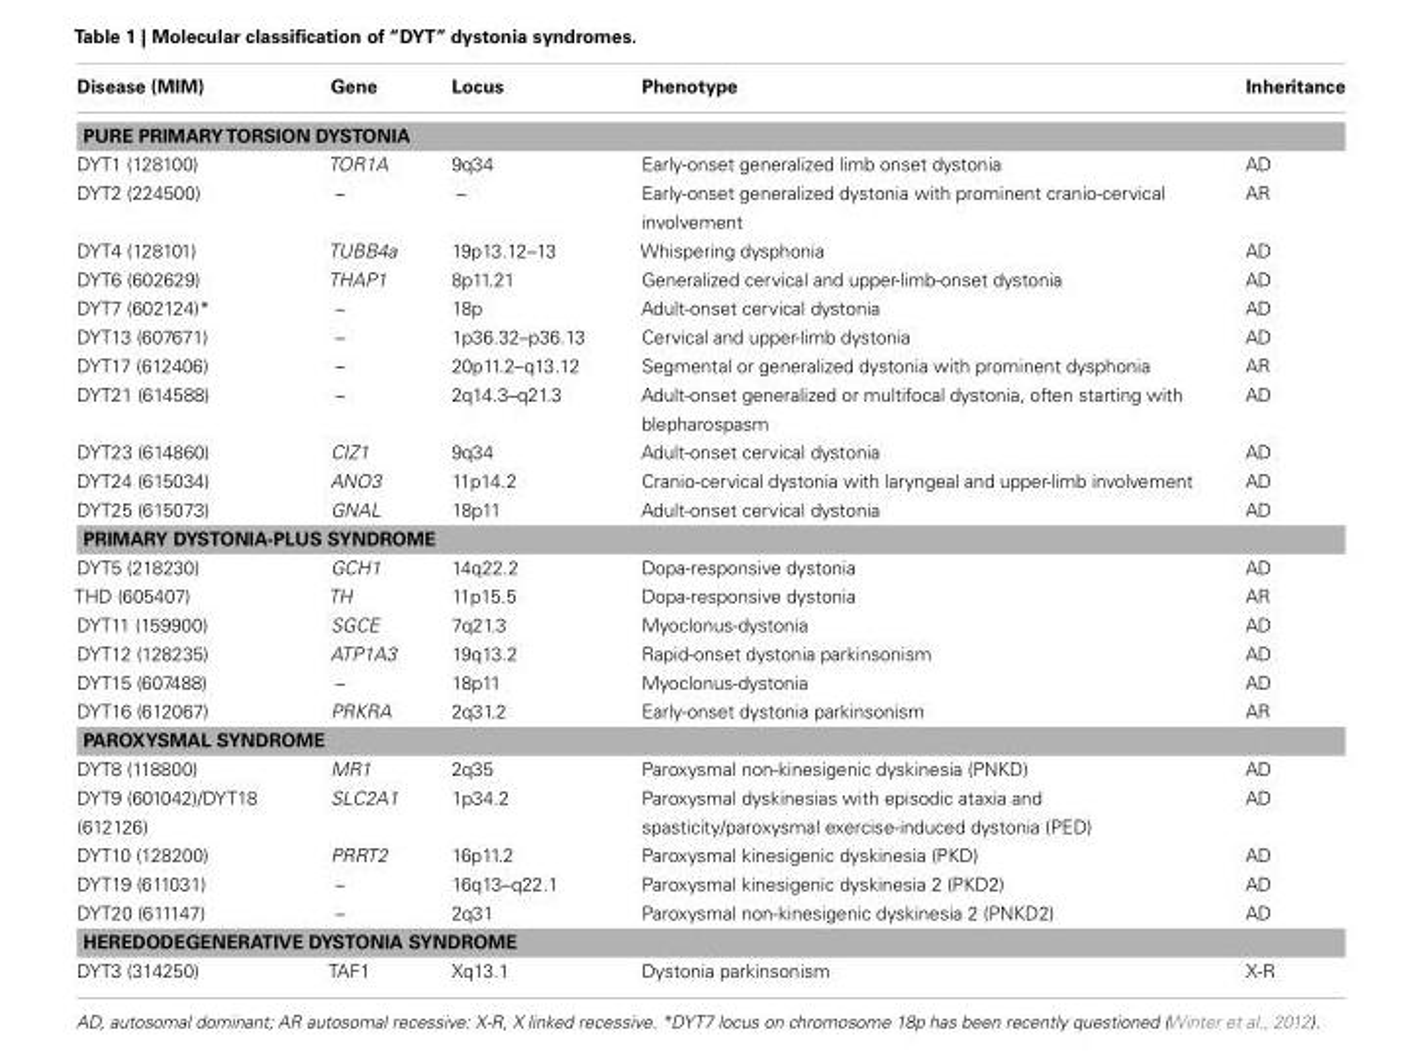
<table><thead><tr><td>Disease (MIM)</td><td>Gene</td><td>Locus</td><td>Phenotype</td><td>Inheritance</td></tr></thead><tbody><tr><td colspan="5">PURE PRIMARYTORSION DYSTONIA</td></tr><tr><td>DYT1 (128100)</td><td>TOR1A</td><td>9q34</td><td>Early-onset generalized limb onset dystonia</td><td>AD</td></tr><tr><td>DYT2 (224500)</td><td>–</td><td>–</td><td>Early-onset generalized dystonia with prominent cranio-cervical involvement</td><td>AR</td></tr><tr><td>DYT4 (128101)</td><td>TUBB4a</td><td>19p13.12–13</td><td>Whispering dysphonia</td><td>AD</td></tr><tr><td>DYT6 (602629)</td><td>THAP1</td><td>8p11.21</td><td>Generalized cervical and upper-limb-onset dystonia</td><td>AD</td></tr><tr><td>DYT7 (602124)*</td><td>–</td><td>18p</td><td>Adult-onset cervical dystonia</td><td>AD</td></tr><tr><td>DYT13 (607671)</td><td>–</td><td>1p36.32–p36.13</td><td>Cervical and upper-limb dystonia</td><td>AD</td></tr><tr><td>DYT17 (612406)</td><td>–</td><td>20p11.2–q13.12</td><td>Segmental or generalized dystonia with prominent dysphonia</td><td>AR</td></tr><tr><td>DYT21 (614588)</td><td>–</td><td>2q14.3–q21.3</td><td>Adult-onset generalized or multifocal dystonia, often starting with blepharospasm</td><td>AD</td></tr><tr><td>DYT23 (614860)</td><td>CIZ1</td><td>9q34</td><td>Adult-onset cervical dystonia</td><td>AD</td></tr><tr><td>DYT24 (615034)</td><td>ANO3</td><td>11p14.2</td><td>Cranio-cervical dystonia with laryngeal and upper-limb involvement</td><td>AD</td></tr><tr><td>DYT25 (615073)</td><td>GNAL</td><td>18p11</td><td>Adult-onset cervical dystonia</td><td>AD</td></tr><tr><td colspan="5">PRIMARY DYSTONIA-PLUS SYNDROME</td></tr><tr><td>DYT5 (218230)</td><td>GCH1</td><td>14q22.2</td><td>Dopa-responsive dystonia</td><td>AD</td></tr><tr><td>THD (605407)</td><td>TH</td><td>11p15.5</td><td>Dopa-responsive dystonia</td><td>AR</td></tr><tr><td>DYT11 (159900)</td><td>SGCE</td><td>7q21.3</td><td>Myoclonus-dystonia</td><td>AD</td></tr><tr><td>DYT12 (128235)</td><td>ATP1A3</td><td>19q13.2</td><td>Rapid-onset dystonia parkinsonism</td><td>AD</td></tr><tr><td>DYT15 (607488)</td><td>–</td><td>18p11</td><td>Myoclonus-dystonia</td><td>AD</td></tr><tr><td>DYT16 (612067)</td><td>PRKRA</td><td>2q31.2</td><td>Early-onset dystonia parkinsonism</td><td>AR</td></tr><tr><td colspan="5">PAROXYSMAL SYNDROME</td></tr><tr><td>DYT8 (118800)</td><td>MR1</td><td>2q35</td><td>Paroxysmal non-kinesigenic dyskinesia (PNKD)</td><td>AD</td></tr><tr><td>DYT9 (601042)/DYT18 (612126)</td><td>SLC2A1</td><td>1p34.2</td><td>Paroxysmal dyskinesias with episodic ataxia and spasticity/paroxysmal exercise-induced dystonia (PED)</td><td>AD</td></tr><tr><td>DYT10 (128200)</td><td>PRRT2</td><td>16p11.2</td><td>Paroxysmal kinesigenic dyskinesia (PKD)</td><td>AD</td></tr><tr><td>DYT19 (611031)</td><td>–</td><td>16q13–q22.1</td><td>Paroxysmal kinesigenic dyskinesia 2 (PKD2)</td><td>AD</td></tr><tr><td>DYT20 (611147)</td><td>–</td><td>2q31</td><td>Paroxysmal non-kinesigenic dyskinesia 2 (PNKD2)</td><td>AD</td></tr><tr><td colspan="5">HEREDODEGENERATIVE DYSTONIA SYNDROME</td></tr><tr><td>DYT3 (314250)</td><td>TAF1</td><td>Xq13.1</td><td>Dystonia parkinsonism</td><td>X-R</td></tr></tbody></table>